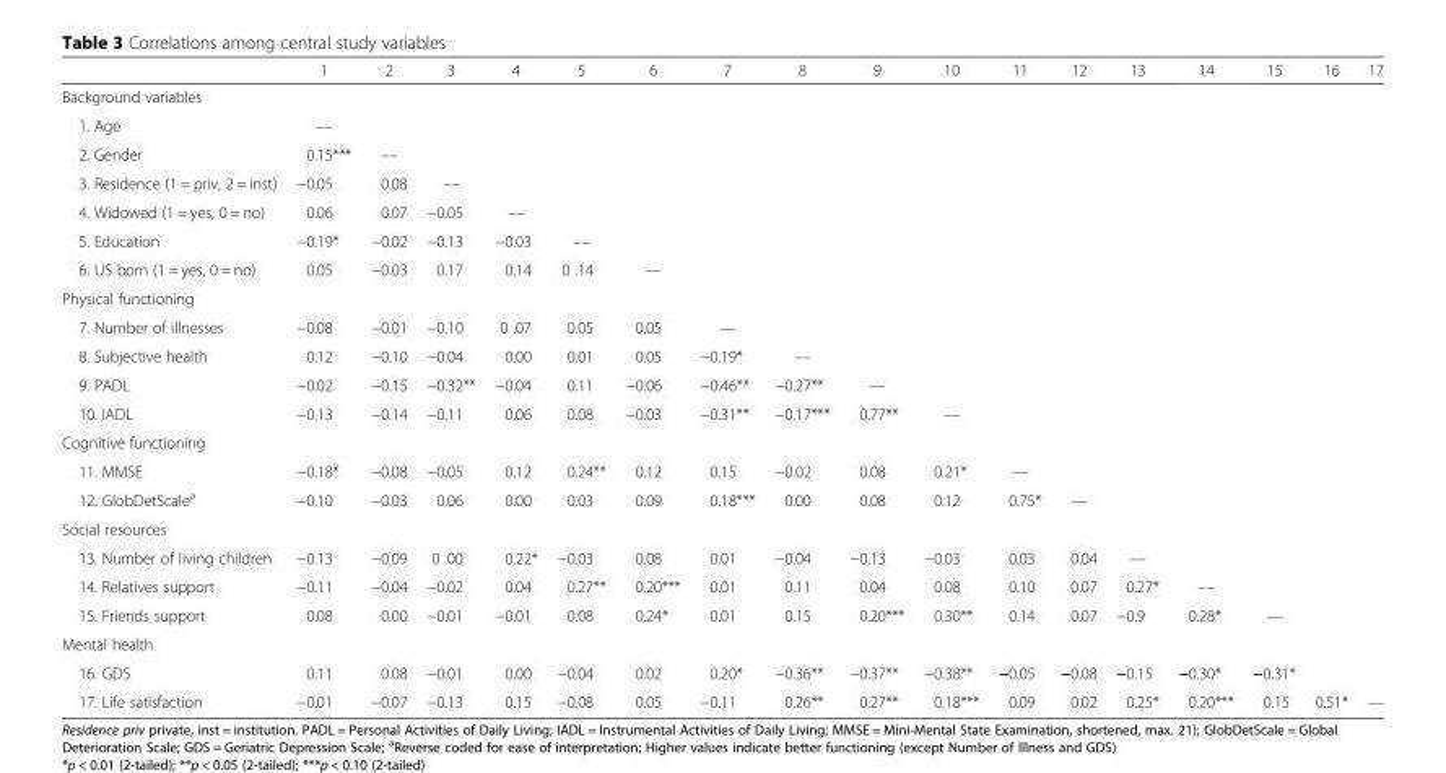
<table><thead><tr><td></td><td>1</td><td>2</td><td>3</td><td>4</td><td>5</td><td>6</td><td>7</td><td>8</td><td>9</td><td>10</td><td>11</td><td>12</td><td>13</td><td>14</td><td>15</td><td>16</td><td>17</td></tr></thead><tbody><tr><td colspan="18">Background variables</td></tr><tr><td>1. Age</td><td>––</td><td></td><td></td><td></td><td></td><td></td><td></td><td></td><td></td><td></td><td colspan="7"></td></tr><tr><td>2. Gender</td><td>0.15***</td><td>––</td><td></td><td></td><td></td><td></td><td></td><td></td><td></td><td></td><td colspan="7"></td></tr><tr><td>3. Residence (1 = priv, 2 = inst)</td><td>−0.05</td><td>0.08</td><td>––</td><td></td><td></td><td></td><td></td><td></td><td></td><td></td><td colspan="7"></td></tr><tr><td>4. Widowed (1 = yes, 0 = no)</td><td>0.06</td><td>0.07</td><td>−0.05</td><td>––</td><td></td><td></td><td></td><td></td><td></td><td></td><td colspan="7"></td></tr><tr><td>5. Education</td><td>−0.19*</td><td>−0.02</td><td>−0.13</td><td>−0.03</td><td>––</td><td></td><td></td><td></td><td></td><td></td><td colspan="7"></td></tr><tr><td>6. US born (1 = yes, 0 = no)</td><td>0.05</td><td>−0.03</td><td>0.17</td><td>0.14</td><td>0 .14</td><td>––</td><td></td><td></td><td></td><td></td><td colspan="7"></td></tr><tr><td colspan="18">Physical functioning</td></tr><tr><td>7. Number of illnesses</td><td>−0.08</td><td>−0.01</td><td>−0.10</td><td>0 .07</td><td>0.05</td><td>0.05</td><td>––</td><td></td><td></td><td></td><td colspan="7"></td></tr><tr><td>8. Subjective health</td><td>0.12</td><td>−0.10</td><td>−0.04</td><td>0.00</td><td>0.01</td><td>0.05</td><td>−0.19*</td><td>––</td><td></td><td></td><td colspan="7"></td></tr><tr><td>9. PADL</td><td>−0.02</td><td>−0.15</td><td>−0.32**</td><td>−0.04</td><td>0.11</td><td>−0.06</td><td>−0.46**</td><td>−0.27**</td><td>––</td><td></td><td colspan="7"></td></tr><tr><td>10. IADL</td><td>−0.13</td><td>−0.14</td><td>−0.11</td><td>0.06</td><td>0.08</td><td>−0.03</td><td>−0.31**</td><td>−0.17***</td><td>0.77**</td><td>––</td><td colspan="7"></td></tr><tr><td colspan="18">Cognitive functioning</td></tr><tr><td>11. MMSE</td><td>−0.18*</td><td>−0.08</td><td>−0.05</td><td>0.12</td><td>0.24**</td><td>0.12</td><td>0.15</td><td>−0.02</td><td>0.08</td><td>0.21*</td><td>––</td><td colspan="6"></td></tr><tr><td>12. GlobDetScale<sup>a</sup></td><td>−0.10</td><td>−0.03</td><td>0.06</td><td>0.00</td><td>0.03</td><td>0.09</td><td>0.18***</td><td>0.00</td><td>0.08</td><td>0.12</td><td>0.75*</td><td>––</td><td colspan="5"></td></tr><tr><td colspan="18">Social resources</td></tr><tr><td>13. Number of living children</td><td>−0.13</td><td>−0.09</td><td>0 .00</td><td>0.22*</td><td>−0.03</td><td>0.08</td><td>0.01</td><td>−0.04</td><td>−0.13</td><td>−0.03</td><td>0.03</td><td>0.04</td><td>––</td><td colspan="4"></td></tr><tr><td>14. Relatives support</td><td>−0.11</td><td>−0.04</td><td>−0.02</td><td>0.04</td><td>0.27**</td><td>0.20***</td><td>0.01</td><td>0.11</td><td>0.04</td><td>0.08</td><td>0.10</td><td>0.07</td><td>0.27*</td><td>––</td><td colspan="3"></td></tr><tr><td>15. Friends support</td><td>0.08</td><td>0.00</td><td>−0.01</td><td>−0.01</td><td>0.08</td><td>0.24*</td><td>0.01</td><td>0.15</td><td>0.20***</td><td>0.30**</td><td>0.14</td><td>0.07</td><td>−0.9</td><td>0.28*</td><td>––</td><td colspan="2"></td></tr><tr><td colspan="18">Mental health</td></tr><tr><td>16. GDS</td><td>0.11</td><td>0.08</td><td>−0.01</td><td>0.00</td><td>−0.04</td><td>0.02</td><td>0.20*</td><td>−0.36**</td><td>−0.37**</td><td>−0.38**</td><td>−0.05</td><td>−0.08</td><td>−0.15</td><td>−0.30*</td><td>−0.31*</td><td colspan="2"></td></tr><tr><td>17. Life satisfaction</td><td>−0.01</td><td>−0.07</td><td>−0.13</td><td>0.15</td><td>−0.08</td><td>0.05</td><td>−0.11</td><td>0.26**</td><td>0.27**</td><td>0.18***</td><td>0.09</td><td>0.02</td><td>0.25*</td><td>0.20***</td><td>0.15</td><td>0.51*</td><td>––</td></tr></tbody></table>